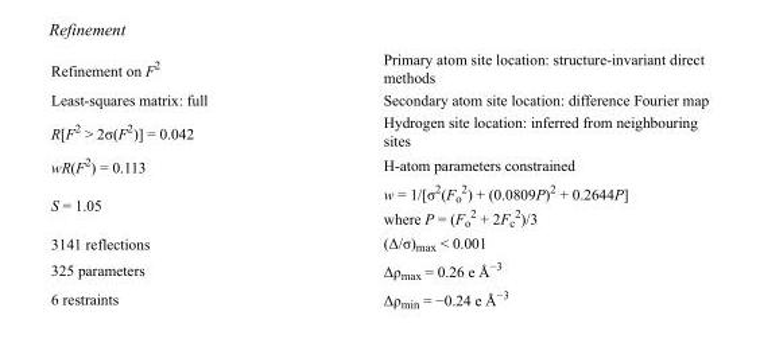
<table><tbody><tr><td>Refinement on F<sup>2</sup></td><td>Primary atom site location: structure-invariant direct methods</td></tr><tr><td>Least-squares matrix: full</td><td>Secondary atom site location: difference Fourier map</td></tr><tr><td>R[F<sup>2</sup> &gt; 2σ(F<sup>2</sup>)] = 0.042</td><td>Hydrogen site location: inferred from neighbouring sites</td></tr><tr><td>wR(F<sup>2</sup>) = 0.113</td><td>H-atom parameters constrained</td></tr><tr><td>S = 1.05</td><td>w = 1/[σ<sup>2</sup>(F<sub>o</sub> <sup>2</sup>) + (0.0809P)<sup>2</sup> + 0.2644P] where P = (F<sub>o</sub> <sup>2</sup> + 2F<sub>c</sub> <sup>2</sup>)/3</td></tr><tr><td>3141 reflections</td><td>(Δ/σ)<sub>max</sub> &lt; 0.001</td></tr><tr><td>325 parameters</td><td>Δρ<sub>max</sub> = 0.26 e Å<sup>−3</sup></td></tr><tr><td>6 restraints</td><td>Δρ<sub>min</sub> = −0.24 e Å<sup>−3</sup></td></tr></tbody></table>